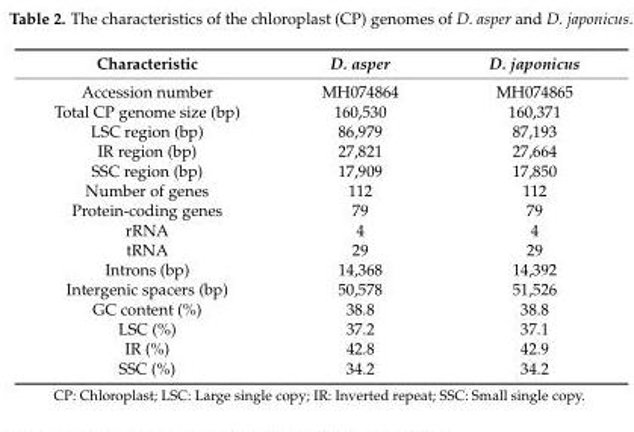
<table><thead><tr><td>Characteristic</td><td>D. asper</td><td>D. japonicus</td></tr></thead><tbody><tr><td>Accession number</td><td>MH074864</td><td>MH074865</td></tr><tr><td>Total CP genome size (bp)</td><td>160,530</td><td>160,371</td></tr><tr><td>LSC region (bp)</td><td>86,979</td><td>87,193</td></tr><tr><td>IR region (bp)</td><td>27,821</td><td>27,664</td></tr><tr><td>SSC region (bp)</td><td>17,909</td><td>17,850</td></tr><tr><td>Number of genes</td><td>112</td><td>112</td></tr><tr><td>Protein-coding genes</td><td>79</td><td>79</td></tr><tr><td>rRNA</td><td>4</td><td>4</td></tr><tr><td>tRNA</td><td>29</td><td>29</td></tr><tr><td>Introns (bp)</td><td>14,368</td><td>14,392</td></tr><tr><td>Intergenic spacers (bp)</td><td>50,578</td><td>51,526</td></tr><tr><td>GC content (%)</td><td>38.8</td><td>38.8</td></tr><tr><td>LSC (%)</td><td>37.2</td><td>37.1</td></tr><tr><td>IR (%)</td><td>42.8</td><td>42.9</td></tr><tr><td>SSC (%)</td><td>34.2</td><td>34.2</td></tr></tbody></table>